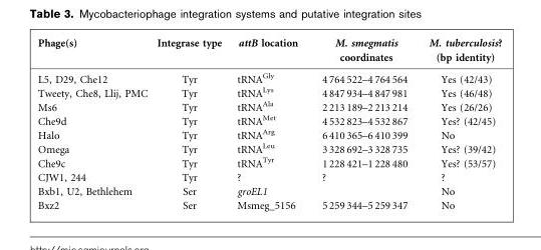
<table><thead><tr><td>Phage(s)</td><td>Integrase type</td><td>attB location</td><td>M. smegmatis coordinates</td><td>M. tuberculosis? (bp identity)</td></tr></thead><tbody><tr><td>L5, D29, Che12</td><td>Tyr</td><td>tRNA<sup>Gly</sup></td><td>4 764 522–4 764 564</td><td>Yes (42/43)</td></tr><tr><td>Tweety, Che8, Llij, PMC</td><td>Tyr</td><td>tRNA<sup>Lys</sup></td><td>4 847 934–4 847 981</td><td>Yes (46/48)</td></tr><tr><td>Ms6</td><td>Tyr</td><td>tRNA<sup>Ala</sup></td><td>2 213 189–2 213 214</td><td>Yes (26/26)</td></tr><tr><td>Che9d</td><td>Tyr</td><td>tRNA<sup>Met</sup></td><td>4 532 823–4 532 867</td><td>Yes? (42/45)</td></tr><tr><td>Halo</td><td>Tyr</td><td>tRNA<sup>Arg</sup></td><td>6 410 365–6 410 399</td><td>No</td></tr><tr><td>Omega</td><td>Tyr</td><td>tRNA<sup>Leu</sup></td><td>3 328 692–3 328 735</td><td>Yes? (39/42)</td></tr><tr><td>Che9c</td><td>Tyr</td><td>tRNA<sup>Tyr</sup></td><td>1 228 421–1 228 480</td><td>Yes? (53/57)</td></tr><tr><td>CJW1, 244</td><td>Tyr</td><td>?</td><td>?</td><td>?</td></tr><tr><td>Bxb1, U2, Bethlehem</td><td>Ser</td><td>groEL1</td><td></td><td>No</td></tr><tr><td>Bxz2</td><td>Ser</td><td>Msmeg_5156</td><td>5 259 344–5 259 347</td><td>No</td></tr></tbody></table>